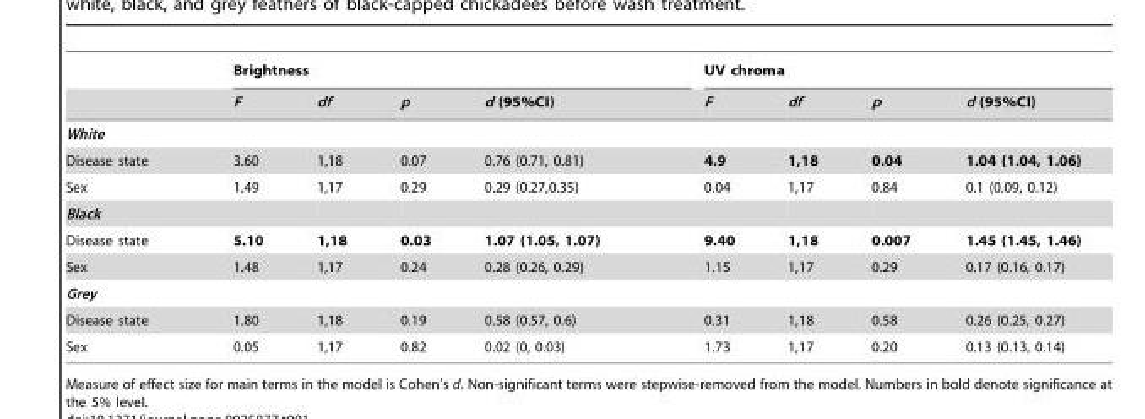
<table><thead><tr><td rowspan="2"></td><td colspan="4">Brightness</td><td colspan="4">UV chroma</td></tr><tr><td>F</td><td>df</td><td>p</td><td>d (95%CI)</td><td>F</td><td>df</td><td>p</td><td>d (95%CI)</td></tr></thead><tbody><tr><td colspan="9">White</td></tr><tr><td>Disease state</td><td>3.60</td><td>1,18</td><td>0.07</td><td>0.76 (0.71, 0.81)</td><td>4.9</td><td>1,18</td><td>0.04</td><td>1.04 (1.04, 1.06)</td></tr><tr><td>Sex</td><td>1.49</td><td>1,17</td><td>0.29</td><td>0.29 (0.27,0.35)</td><td>0.04</td><td>1,17</td><td>0.84</td><td>0.1 (0.09, 0.12)</td></tr><tr><td colspan="9">Black</td></tr><tr><td>Disease state</td><td>5.10</td><td>1,18</td><td>0.03</td><td>1.07 (1.05, 1.07)</td><td>9.40</td><td>1,18</td><td>0.007</td><td>1.45 (1.45, 1.46)</td></tr><tr><td>Sex</td><td>1.48</td><td>1,17</td><td>0.24</td><td>0.28 (0.26, 0.29)</td><td>1.15</td><td>1,17</td><td>0.29</td><td>0.17 (0.16, 0.17)</td></tr><tr><td colspan="9">Grey</td></tr><tr><td>Disease state</td><td>1.80</td><td>1,18</td><td>0.19</td><td>0.58 (0.57, 0.6)</td><td>0.31</td><td>1,18</td><td>0.58</td><td>0.26 (0.25, 0.27)</td></tr><tr><td>Sex</td><td>0.05</td><td>1,17</td><td>0.82</td><td>0.02 (0, 0.03)</td><td>1.73</td><td>1,17</td><td>0.20</td><td>0.13 (0.13, 0.14)</td></tr></tbody></table>